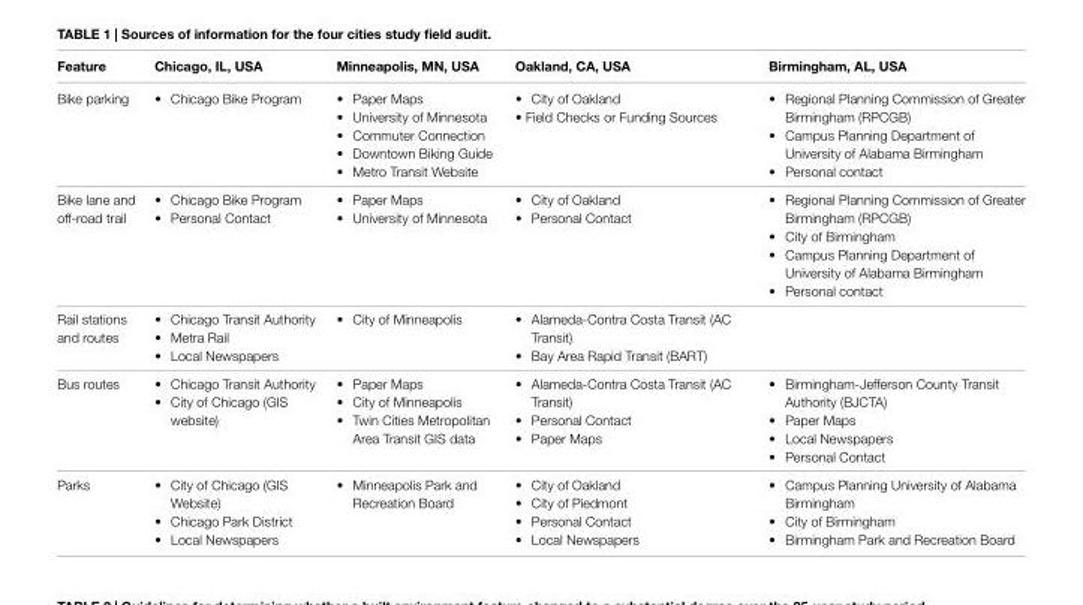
<table><thead><tr><td>Feature</td><td>Chicago, IL, UsA</td><td>Minneapolis, MN, UsA</td><td>oakland, CA, UsA</td><td>Birmingham, AL, UsA</td></tr></thead><tbody><tr><td>Bike parking</td><td>• Chicago Bike Program</td><td>• Paper Maps • University of Minnesota • Commuter Connection • Downtown Biking Guide • Metro Transit Website</td><td>• City of Oakland • Field Checks or Funding Sources</td><td>• Regional Planning Commission of Greater Birmingham (RPCGB) • Campus Planning Department of University of Alabama Birmingham • Personal contact</td></tr><tr><td>Bike lane and off-road trail</td><td>• Chicago Bike Program • Personal Contact</td><td>• Paper Maps • University of Minnesota</td><td>• City of Oakland • Personal Contact</td><td>• Regional Planning Commission of Greater Birmingham (RPCGB) • City of Birmingham • Campus Planning Department of University of Alabama Birmingham • Personal contact</td></tr><tr><td>Rail stations and routes</td><td>• Chicago Transit Authority • Metra Rail • Local Newspapers</td><td>• City of Minneapolis</td><td>• Alameda-Contra Costa Transit (AC Transit) • Bay Area Rapid Transit (BART)</td><td></td></tr><tr><td>Bus routes</td><td>• Chicago Transit Authority • City of Chicago (GIS website)</td><td>• Paper Maps • City of Minneapolis • Twin Cities Metropolitan Area Transit GIS data</td><td>• Alameda-Contra Costa Transit (AC Transit) • Personal Contact • Paper Maps</td><td>• Birmingham-Jefferson County Transit Authority (BJCTA) • Paper Maps • Local Newspapers • Personal Contact</td></tr><tr><td>Parks</td><td>• City of Chicago (GIS Website) • Chicago Park District • Local Newspapers</td><td>• Minneapolis Park and Recreation Board</td><td>• City of Oakland • City of Piedmont • Personal Contact • Local Newspapers</td><td>• Campus Planning University of Alabama Birmingham • City of Birmingham • Birmingham Park and Recreation Board</td></tr></tbody></table>